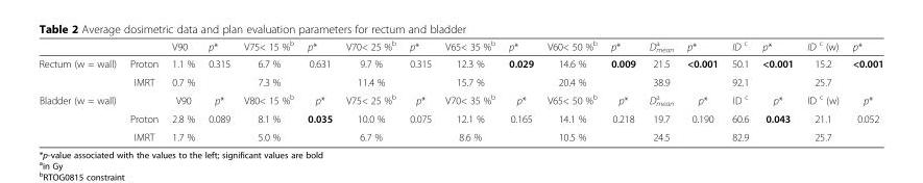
<table><thead><tr><td></td><td></td><td>V90</td><td>p*</td><td>V75&lt; 15 %<sup>b</sup></td><td>p*</td><td>V70&lt; 25 %<sup>b</sup></td><td>p*</td><td>V65&lt; 35 %<sup>b</sup></td><td>p*</td><td>V60&lt; 50 %<sup>b</sup></td><td>p*</td><td>D<sub>mean</sub> <sup>a</sup></td><td>p*</td><td>ID <sup>c</sup></td><td>p*</td><td>ID <sup>c</sup> (w)</td><td>p*</td></tr></thead><tbody><tr><td rowspan="2">Rectum (w = wall)</td><td>Proton</td><td>1.1 %</td><td rowspan="2">0.315</td><td>6.7 %</td><td rowspan="2">0.631</td><td>9.7 %</td><td rowspan="2">0.315</td><td>12.3 %</td><td rowspan="2">0.029</td><td>14.6 %</td><td rowspan="2">0.009</td><td>21.5</td><td rowspan="2">&lt;0.001</td><td>50.1</td><td rowspan="2">&lt;0.001</td><td>15.2</td><td rowspan="2">&lt;0.001</td></tr><tr><td>IMRT</td><td>0.7 %</td><td>7.3 %</td><td>11.4 %</td><td>15.7 %</td><td>20.4 %</td><td>38.9</td><td>92.1</td><td>25.7</td></tr><tr><td rowspan="3">Bladder (w = wall)</td><td></td><td>V90</td><td>p*</td><td>V80&lt; 15 %<sup>b</sup></td><td>p*</td><td>V75&lt; 25 %<sup>b</sup></td><td>p*</td><td>V70&lt; 35 %<sup>b</sup></td><td>p*</td><td>V65&lt; 50 %<sup>b</sup></td><td>p*</td><td>D<sub>mean</sub> <sup>a</sup></td><td>p*</td><td>ID <sup>c</sup></td><td>p*</td><td>ID <sup>c</sup> (w)</td><td>p*</td></tr><tr><td>Proton</td><td>2.8 %</td><td rowspan="2">0.089</td><td>8.1 %</td><td rowspan="2">0.035</td><td>10.0 %</td><td rowspan="2">0.075</td><td>12.1 %</td><td rowspan="2">0.165</td><td>14.1 %</td><td rowspan="2">0.218</td><td>19.7</td><td rowspan="2">0.190</td><td>60.6</td><td rowspan="2">0.043</td><td>21.1</td><td rowspan="2">0.052</td></tr><tr><td>IMRT</td><td>1.7 %</td><td>5.0 %</td><td>6.7 %</td><td>8.6 %</td><td>10.5 %</td><td>24.5</td><td>82.9</td><td>25.7</td></tr></tbody></table>